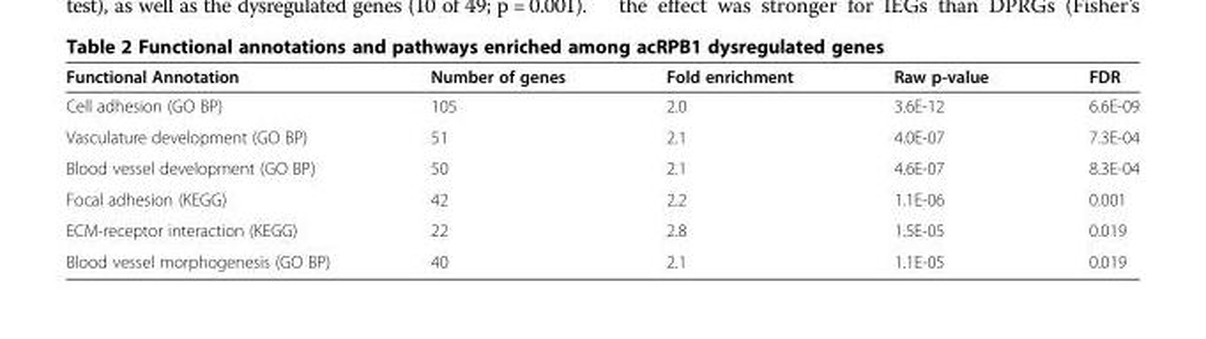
<table><thead><tr><td>Functional Annotation</td><td>Number of genes</td><td>Fold enrichment</td><td>Raw p-value</td><td>FDR</td></tr></thead><tbody><tr><td>Cell adhesion (GO BP)</td><td>105</td><td>2.0</td><td>3.6E-12</td><td>6.6E-09</td></tr><tr><td>Vasculature development (GO BP)</td><td>51</td><td>2.1</td><td>4.0E-07</td><td>7.3E-04</td></tr><tr><td>Blood vessel development (GO BP)</td><td>50</td><td>2.1</td><td>4.6E-07</td><td>8.3E-04</td></tr><tr><td>Focal adhesion (KEGG)</td><td>42</td><td>2.2</td><td>1.1E-06</td><td>0.001</td></tr><tr><td>ECM-receptor interaction (KEGG)</td><td>22</td><td>2.8</td><td>1.5E-05</td><td>0.019</td></tr><tr><td>Blood vessel morphogenesis (GO BP)</td><td>40</td><td>2.1</td><td>1.1E-05</td><td>0.019</td></tr></tbody></table>